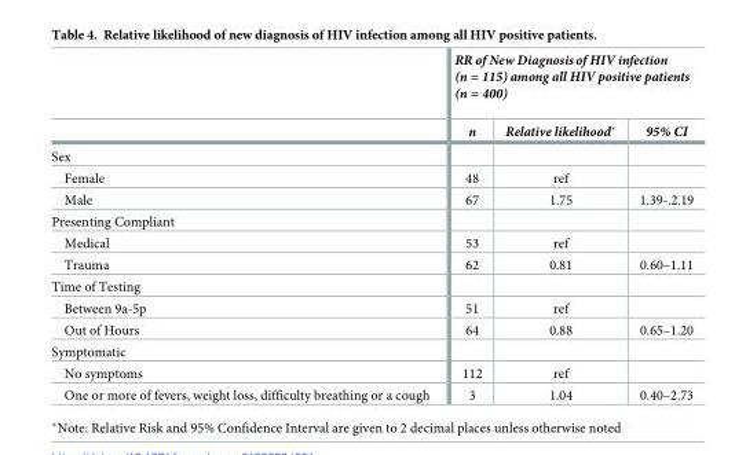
<table><thead><tr><td rowspan="2"></td><td colspan="3">RR of New Diagnosisof HIV infection (n = 115) among all HIV positive patients (n = 400)</td></tr><tr><td>n</td><td>Relative likelihood*</td><td>95% CI</td></tr></thead><tbody><tr><td colspan="4">Sex</td></tr><tr><td>Female</td><td>48</td><td>ref</td><td></td></tr><tr><td>Male</td><td>67</td><td>1.75</td><td>1.39-.2.19</td></tr><tr><td colspan="4">Presenting Compliant</td></tr><tr><td>Medical</td><td>53</td><td>ref</td><td></td></tr><tr><td>Trauma</td><td>62</td><td>0.81</td><td>0.60–1.11</td></tr><tr><td colspan="4">Time of Testing</td></tr><tr><td>Between 9a-5p</td><td>51</td><td>ref</td><td></td></tr><tr><td>Out of Hours</td><td>64</td><td>0.88</td><td>0.65–1.20</td></tr><tr><td colspan="4">Symptomatic</td></tr><tr><td>No symptoms</td><td>112</td><td>ref</td><td></td></tr><tr><td>One or more of fevers, weight loss, difficulty breathing or a cough</td><td>3</td><td>1.04</td><td>0.40–2.73</td></tr></tbody></table>